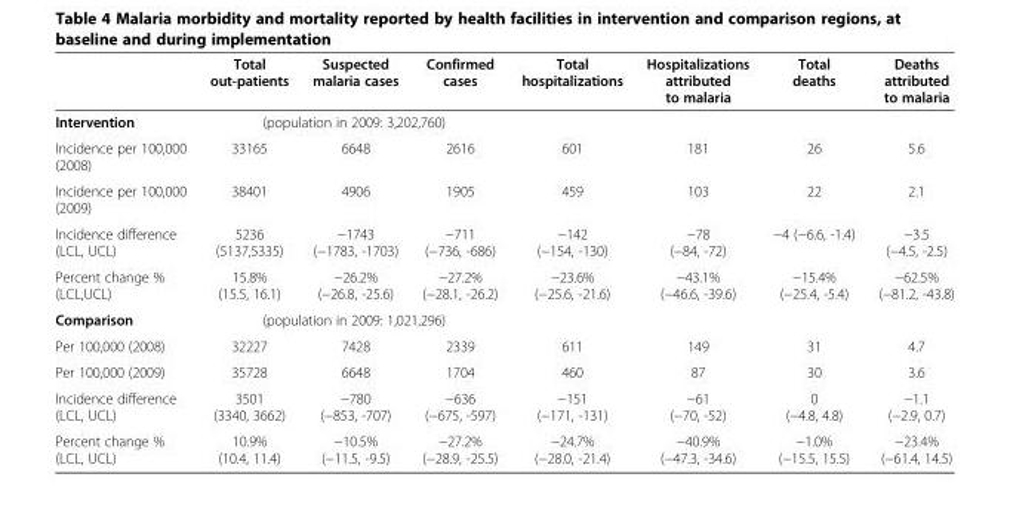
<table><thead><tr><td></td><td>Total out-patients</td><td>Suspected malaria cases</td><td>Confirmed cases</td><td>Total hospitalizations</td><td>Hospitalizations attributed to malaria</td><td>Total deaths</td><td>Deaths attributed to malaria</td></tr></thead><tbody><tr><td>Intervention</td><td colspan="3">(population in 2009: 3,202,760)</td><td></td><td></td><td></td><td></td></tr><tr><td>Incidence per 100,000 (2008)</td><td>33165</td><td>6648</td><td>2616</td><td>601</td><td>181</td><td>26</td><td>5.6</td></tr><tr><td>Incidence per 100,000 (2009)</td><td>38401</td><td>4906</td><td>1905</td><td>459</td><td>103</td><td>22</td><td>2.1</td></tr><tr><td>Incidence difference (LCL, UCL)</td><td>5236 (5137,5335)</td><td>−1743 (−1783, -1703)</td><td>−711 (−736, -686)</td><td>−142 (−154, -130)</td><td>−78 (−84, -72)</td><td>−4 (−6.6, -1.4)</td><td>−3.5 (−4.5, -2.5)</td></tr><tr><td>Percent change % (LCL,UCL)</td><td>15.8% (15.5, 16.1)</td><td>−26.2% (−26.8, -25.6)</td><td>−27.2% (−28.1, -26.2)</td><td>−23.6% (−25.6, -21.6)</td><td>−43.1% (−46.6, -39.6)</td><td>−15.4% (−25.4, -5.4)</td><td>−62.5% (−81.2, -43.8)</td></tr><tr><td>Comparison</td><td colspan="3">(population in 2009: 1,021,296)</td><td></td><td></td><td></td><td></td></tr><tr><td>Per 100,000 (2008)</td><td>32227</td><td>7428</td><td>2339</td><td>611</td><td>149</td><td>31</td><td>4.7</td></tr><tr><td>Per 100,000 (2009)</td><td>35728</td><td>6648</td><td>1704</td><td>460</td><td>87</td><td>30</td><td>3.6</td></tr><tr><td>Incidence difference (LCL, UCL)</td><td>3501 (3340, 3662)</td><td>−780 (−853, -707)</td><td>−636 (−675, -597)</td><td>−151 (−171, -131)</td><td>−61 (−70, -52)</td><td>0 (−4.8, 4.8)</td><td>−1.1 (−2.9, 0.7)</td></tr><tr><td>Percent change % (LCL, UCL)</td><td>10.9% (10.4, 11.4)</td><td>−10.5% (−11.5, -9.5)</td><td>−27.2% (−28.9, -25.5)</td><td>−24.7% (−28.0, -21.4)</td><td>−40.9% (−47.3, -34.6)</td><td>−1.0% (−15.5, 15.5)</td><td>−23.4% (−61.4, 14.5)</td></tr></tbody></table>